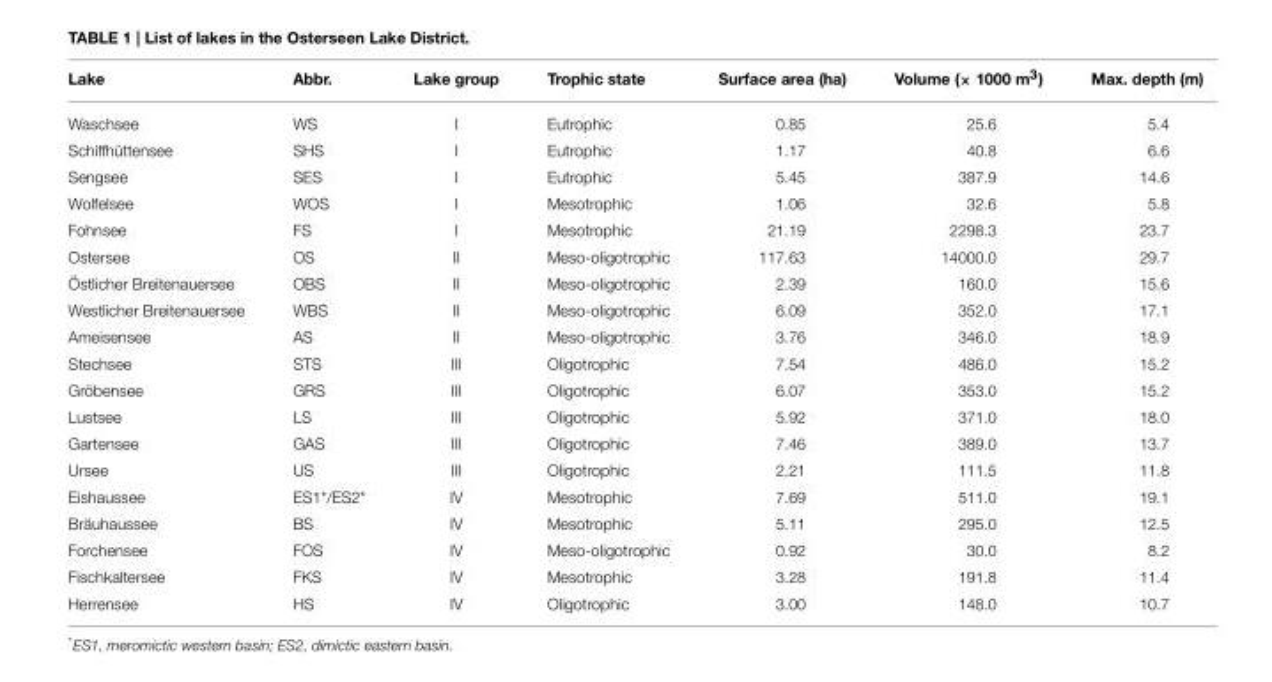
<table><thead><tr><td>Lake</td><td>Abbr.</td><td>Lake group</td><td>Trophic state</td><td>Surface area (ha)</td><td>Volume (× 1000 m<sup>3</sup>)</td><td>Max. depth (m)</td></tr></thead><tbody><tr><td>Waschsee</td><td>WS</td><td>I</td><td>Eutrophic</td><td>0.85</td><td>25.6</td><td>5.4</td></tr><tr><td>Schiffhüttensee</td><td>SHS</td><td>I</td><td>Eutrophic</td><td>1.17</td><td>40.8</td><td>6.6</td></tr><tr><td>Sengsee</td><td>SES</td><td>I</td><td>Eutrophic</td><td>5.45</td><td>387.9</td><td>14.6</td></tr><tr><td>Wolfelsee</td><td>WOS</td><td>I</td><td>Mesotrophic</td><td>1.06</td><td>32.6</td><td>5.8</td></tr><tr><td>Fohnsee</td><td>FS</td><td>I</td><td>Mesotrophic</td><td>21.19</td><td>2298.3</td><td>23.7</td></tr><tr><td>Ostersee</td><td>OS</td><td>II</td><td>Meso-oligotrophic</td><td>117.63</td><td>14000.0</td><td>29.7</td></tr><tr><td>Östlicher Breitenauersee</td><td>OBS</td><td>II</td><td>Meso-oligotrophic</td><td>2.39</td><td>160.0</td><td>15.6</td></tr><tr><td>Westlicher Breitenauersee</td><td>WBS</td><td>II</td><td>Meso-oligotrophic</td><td>6.09</td><td>352.0</td><td>17.1</td></tr><tr><td>Ameisensee</td><td>AS</td><td>II</td><td>Meso-oligotrophic</td><td>3.76</td><td>346.0</td><td>18.9</td></tr><tr><td>Stechsee</td><td>STS</td><td>III</td><td>Oligotrophic</td><td>7.54</td><td>486.0</td><td>15.2</td></tr><tr><td>Gröbensee</td><td>GRS</td><td>III</td><td>Oligotrophic</td><td>6.07</td><td>353.0</td><td>15.2</td></tr><tr><td>Lustsee</td><td>LS</td><td>III</td><td>Oligotrophic</td><td>5.92</td><td>371.0</td><td>18.0</td></tr><tr><td>Gartensee</td><td>GAS</td><td>III</td><td>Oligotrophic</td><td>7.46</td><td>389.0</td><td>13.7</td></tr><tr><td>Ursee</td><td>US</td><td>III</td><td>Oligotrophic</td><td>2.21</td><td>111.5</td><td>11.8</td></tr><tr><td>Eishaussee</td><td>ES1*/ES2*</td><td>IV</td><td>Mesotrophic</td><td>7.69</td><td>511.0</td><td>19.1</td></tr><tr><td>Bräuhaussee</td><td>BS</td><td>IV</td><td>Mesotrophic</td><td>5.11</td><td>295.0</td><td>12.5</td></tr><tr><td>Forchensee</td><td>FOS</td><td>IV</td><td>Meso-oligotrophic</td><td>0.92</td><td>30.0</td><td>8.2</td></tr><tr><td>Fischkaltersee</td><td>FKS</td><td>IV</td><td>Mesotrophic</td><td>3.28</td><td>191.8</td><td>11.4</td></tr><tr><td>Herrensee</td><td>HS</td><td>IV</td><td>Oligotrophic</td><td>3.00</td><td>148.0</td><td>10.7</td></tr></tbody></table>